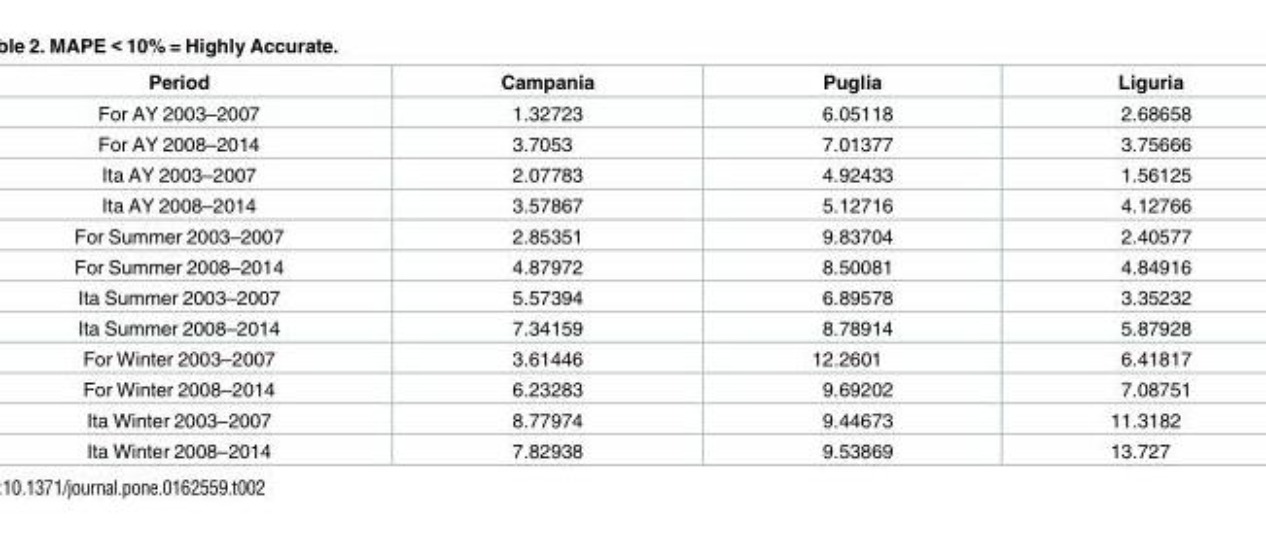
<table><thead><tr><td>Period</td><td>Campania</td><td>Puglia</td><td>Liguria</td></tr></thead><tbody><tr><td>For AY 2003–2007</td><td>1.32723</td><td>6.05118</td><td>2.68658</td></tr><tr><td>For AY 2008–2014</td><td>3.7053</td><td>7.01377</td><td>3.75666</td></tr><tr><td>Ita AY 2003–2007</td><td>2.07783</td><td>4.92433</td><td>1.56125</td></tr><tr><td>Ita AY 2008–2014</td><td>3.57867</td><td>5.12716</td><td>4.12766</td></tr><tr><td>For Summer 2003–2007</td><td>2.85351</td><td>9.83704</td><td>2.40577</td></tr><tr><td>For Summer 2008–2014</td><td>4.87972</td><td>8.50081</td><td>4.84916</td></tr><tr><td>Ita Summer 2003–2007</td><td>5.57394</td><td>6.89578</td><td>3.35232</td></tr><tr><td>Ita Summer 2008–2014</td><td>7.34159</td><td>8.78914</td><td>5.87928</td></tr><tr><td>For Winter 2003–2007</td><td>3.61446</td><td>12.2601</td><td>6.41817</td></tr><tr><td>For Winter 2008–2014</td><td>6.23283</td><td>9.69202</td><td>7.08751</td></tr><tr><td>Ita Winter 2003–2007</td><td>8.77974</td><td>9.44673</td><td>11.3182</td></tr><tr><td>Ita Winter 2008–2014</td><td>7.82938</td><td>9.53869</td><td>13.727</td></tr></tbody></table>